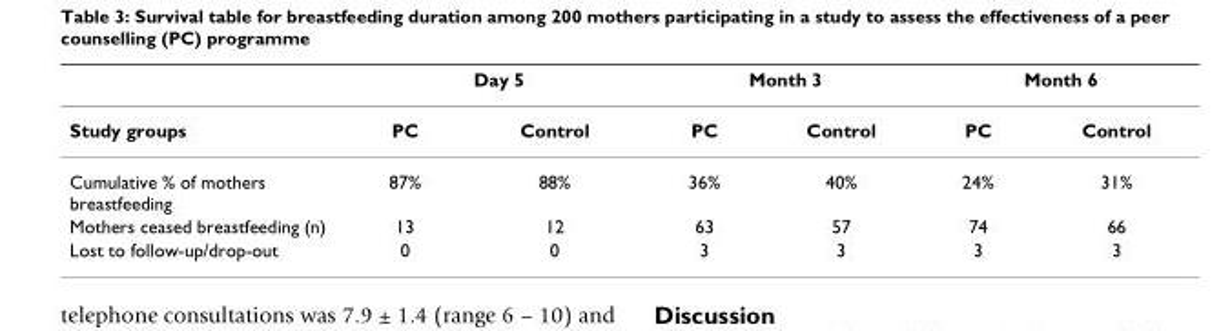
<table><thead><tr><td rowspan="2">Study groups</td><td colspan="2">Day 5</td><td colspan="2">Month 3</td><td colspan="2">Month 6</td></tr><tr><td>PC</td><td>Control</td><td>PC</td><td>Control</td><td>PC</td><td>Control</td></tr></thead><tbody><tr><td>Cumulative % of mothers breastfeeding</td><td>87%</td><td>88%</td><td>36%</td><td>40%</td><td>24%</td><td>31%</td></tr><tr><td>Mothers ceased breastfeeding (n)</td><td>13</td><td>12</td><td>63</td><td>57</td><td>74</td><td>66</td></tr><tr><td>Lost to follow-up/drop-out</td><td>0</td><td>0</td><td>3</td><td>3</td><td>3</td><td>3</td></tr></tbody></table>